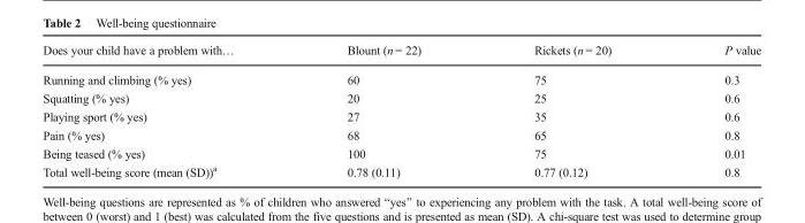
<table><thead><tr><td>Does your child have a problem with…</td><td>Blount (n = 22)</td><td>Rickets (n = 20)</td><td>P value</td></tr></thead><tbody><tr><td>Running and climbing (% yes)</td><td>60</td><td>75</td><td>0.3</td></tr><tr><td>Squatting (% yes)</td><td>20</td><td>25</td><td>0.6</td></tr><tr><td>Playing sport (% yes)</td><td>27</td><td>35</td><td>0.6</td></tr><tr><td>Pain (% yes)</td><td>68</td><td>65</td><td>0.8</td></tr><tr><td>Being teased (% yes)</td><td>100</td><td>75</td><td>0.01</td></tr><tr><td>Total well-being score (mean (SD))<sup>a</sup></td><td>0.78 (0.11)</td><td>0.77 (0.12)</td><td>0.8</td></tr></tbody></table>